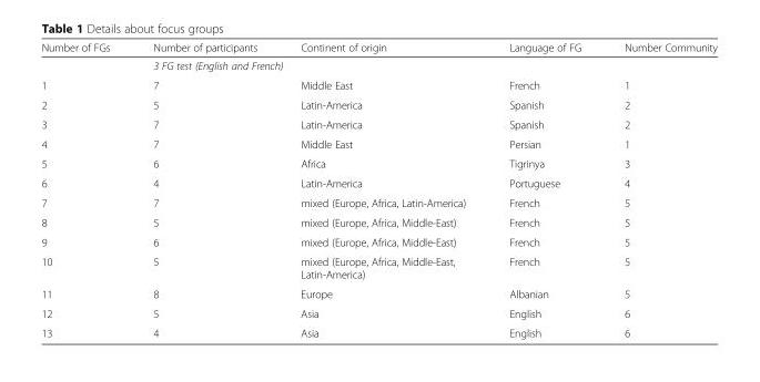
<table><thead><tr><td>Number of FGs</td><td>Number of participants</td><td>Continent of origin</td><td>Language of FG</td><td>Number Community</td></tr></thead><tbody><tr><td></td><td colspan="3">3 FG test (English and French)</td><td></td></tr><tr><td>1</td><td>7</td><td>Middle East</td><td>French</td><td>1</td></tr><tr><td>2</td><td>5</td><td>Latin-America</td><td>Spanish</td><td>2</td></tr><tr><td>3</td><td>7</td><td>Latin-America</td><td>Spanish</td><td>2</td></tr><tr><td>4</td><td>7</td><td>Middle East</td><td>Persian</td><td>1</td></tr><tr><td>5</td><td>6</td><td>Africa</td><td>Tigrinya</td><td>3</td></tr><tr><td>6</td><td>4</td><td>Latin-America</td><td>Portuguese</td><td>4</td></tr><tr><td>7</td><td>7</td><td>mixed (Europe, Africa, Latin-America)</td><td>French</td><td>5</td></tr><tr><td>8</td><td>5</td><td>mixed (Europe, Africa, Middle-East)</td><td>French</td><td>5</td></tr><tr><td>9</td><td>6</td><td>mixed (Europe, Africa, Middle-East)</td><td>French</td><td>5</td></tr><tr><td>10</td><td>5</td><td>mixed (Europe, Africa, Middle-East, Latin-America)</td><td>French</td><td>5</td></tr><tr><td>11</td><td>8</td><td>Europe</td><td>Albanian</td><td>5</td></tr><tr><td>12</td><td>5</td><td>Asia</td><td>English</td><td>6</td></tr><tr><td>13</td><td>4</td><td>Asia</td><td>English</td><td>6</td></tr></tbody></table>